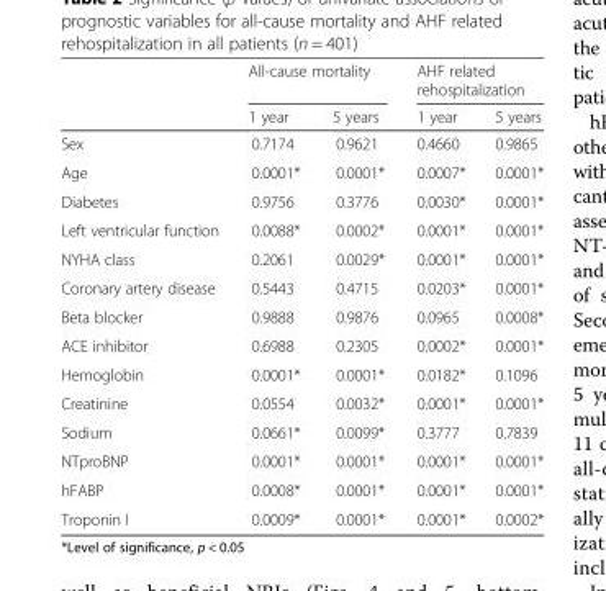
<table><thead><tr><td rowspan="2"></td><td colspan="2">All-cause mortality</td><td colspan="2">AHF related rehospitalization</td></tr><tr><td>1 year</td><td>5 years</td><td>1 year</td><td>5 years</td></tr></thead><tbody><tr><td>Sex</td><td>0.7174</td><td>0.9621</td><td>0.4660</td><td>0.9865</td></tr><tr><td>Age</td><td>0.0001*</td><td>0.0001*</td><td>0.0007*</td><td>0.0001*</td></tr><tr><td>Diabetes</td><td>0.9756</td><td>0.3776</td><td>0.0030*</td><td>0.0001*</td></tr><tr><td>Left ventricular function</td><td>0.0088*</td><td>0.0002*</td><td>0.0001*</td><td>0.0001*</td></tr><tr><td>NYHA class</td><td>0.2061</td><td>0.0029*</td><td>0.0001*</td><td>0.0001*</td></tr><tr><td>Coronary artery disease</td><td>0.5443</td><td>0.4715</td><td>0.0203*</td><td>0.0001*</td></tr><tr><td>Beta blocker</td><td>0.9888</td><td>0.9876</td><td>0.0965</td><td>0.0008*</td></tr><tr><td>ACE inhibitor</td><td>0.6988</td><td>0.2305</td><td>0.0002*</td><td>0.0001*</td></tr><tr><td>Hemoglobin</td><td>0.0001*</td><td>0.0001*</td><td>0.0182*</td><td>0.1096</td></tr><tr><td>Creatinine</td><td>0.0554</td><td>0.0032*</td><td>0.0001*</td><td>0.0001*</td></tr><tr><td>Sodium</td><td>0.0661*</td><td>0.0099*</td><td>0.3777</td><td>0.7839</td></tr><tr><td>NTproBNP</td><td>0.0001*</td><td>0.0001*</td><td>0.0001*</td><td>0.0001*</td></tr><tr><td>hFABP</td><td>0.0008*</td><td>0.0001*</td><td>0.0001*</td><td>0.0001*</td></tr><tr><td>Troponin I</td><td>0.0009*</td><td>0.0001*</td><td>0.0001*</td><td>0.0002*</td></tr></tbody></table>